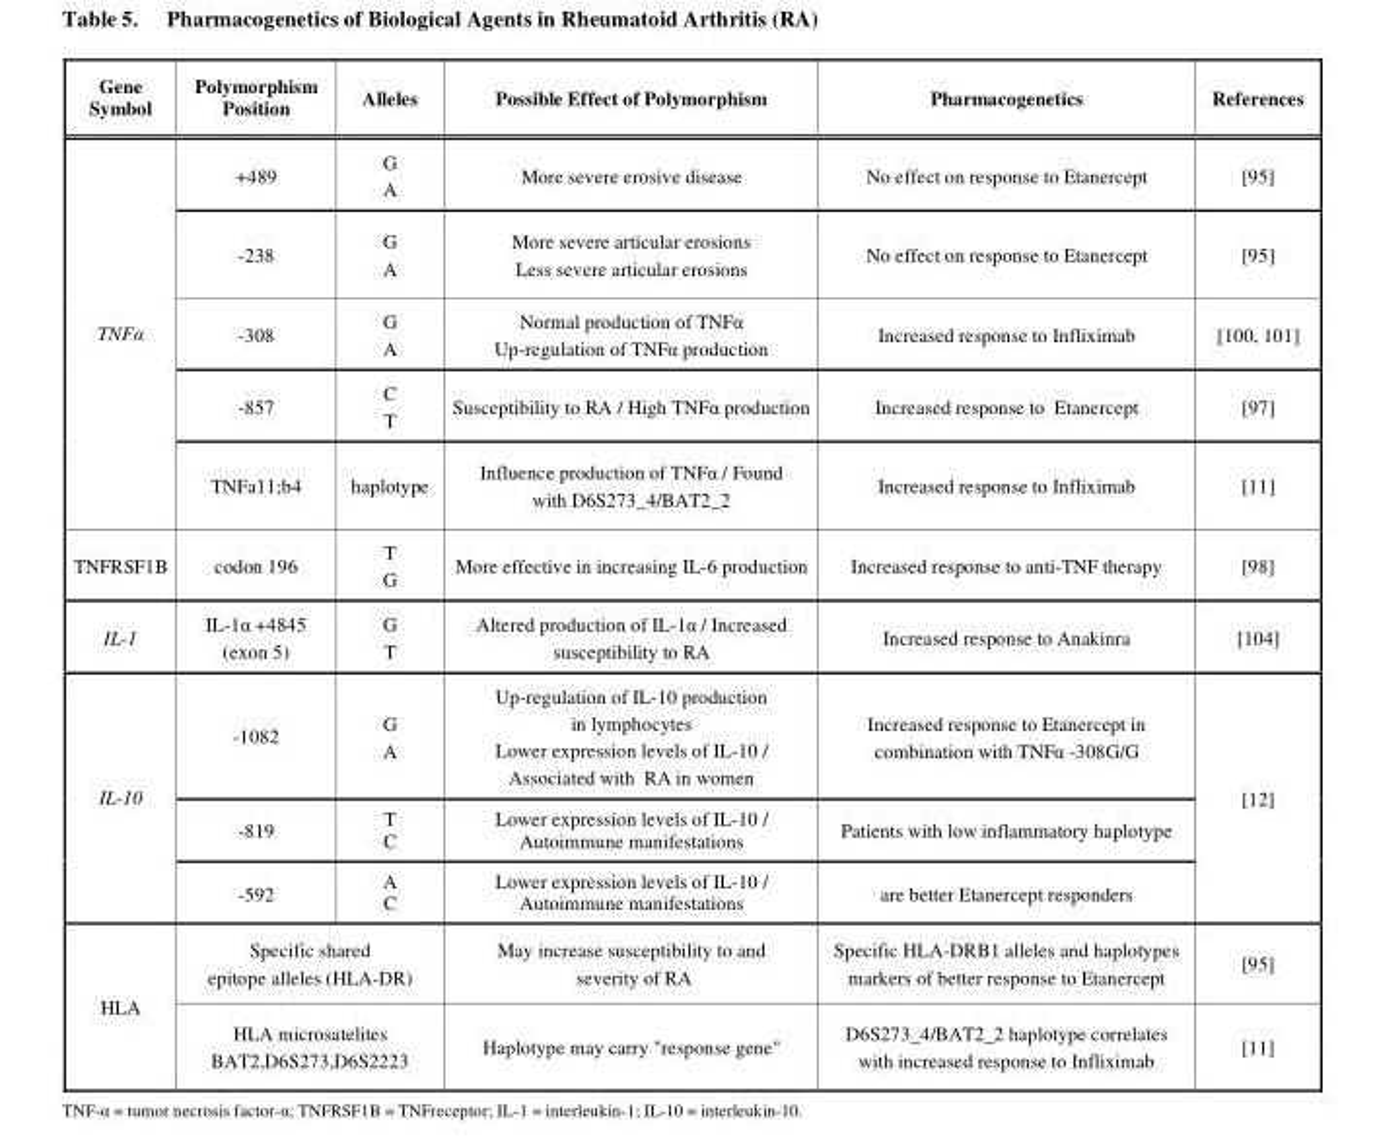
<table><thead><tr><td>Gene Symbol</td><td>Polymorphism Position</td><td>Alleles</td><td>Possible Effect of Polymorphism</td><td>Pharmacogenetics</td><td>References</td></tr></thead><tbody><tr><td rowspan="5">TNFα</td><td>+489</td><td>G A</td><td>More severe erosive disease</td><td>No effect on response to Etanercept</td><td>[95]</td></tr><tr><td>-238</td><td>G A</td><td>More severe articular erosions Less severe articular erosions</td><td>No effect on response to Etanercept</td><td>[95]</td></tr><tr><td>-308</td><td>G A</td><td>Normal production of TNFα Up-regulation of TNFα production</td><td>Increased response to Infliximab</td><td>[100, 101]</td></tr><tr><td>-857</td><td>C T</td><td>Susceptibility to RA / High TNFα production</td><td>Increased response to Etanercept</td><td>[97]</td></tr><tr><td>TNFa11;b4</td><td>haplotype</td><td>Influence production of TNFα / Found with D6S273_4/BAT2_2</td><td>Increased response to Infliximab</td><td>[11]</td></tr><tr><td>TNFRSF1B</td><td>codon 196</td><td>T G</td><td>More effective in increasing IL-6 production</td><td>Increased response to anti-TNF therapy</td><td>[98]</td></tr><tr><td>IL-1</td><td>IL-1α +4845 (exon 5)</td><td>G T</td><td>Altered production of IL-1α / Increased susceptibility to RA</td><td>Increased response to Anakinra</td><td>[104]</td></tr><tr><td rowspan="3">IL-10</td><td>-1082</td><td>G A</td><td>Up-regulation of IL-10 production in lymphocytes Lower expression levels of IL-10 / Associated with RA in women</td><td>Increased response to Etanercept in combination with TNFα -308G/G</td><td rowspan="3">[12]</td></tr><tr><td>-819</td><td>T C</td><td>Lower expression levels of IL-10 / Autoimmune manifestations</td><td>Patients with low inflammatory haplotype</td></tr><tr><td>-592</td><td>A C</td><td>Lower expression levels of IL-10 / Autoimmune manifestations</td><td>are better Etanercept responders</td></tr><tr><td rowspan="2">HLA</td><td colspan="2">Specific shared epitope alleles (HLA-DR)</td><td>May increase susceptibility to and severity of RA</td><td>Specific HLA-DRB1 alleles and haplotypes markers of better response to Etanercept</td><td>[95]</td></tr><tr><td colspan="2">HLA microsatelites BAT2,D6S273,D6S2223</td><td>Haplotype may carry &quot;response gene&quot;</td><td>D6S273_4/BAT2_2 haplotype correlates with increased response to Infliximab</td><td>[11]</td></tr></tbody></table>